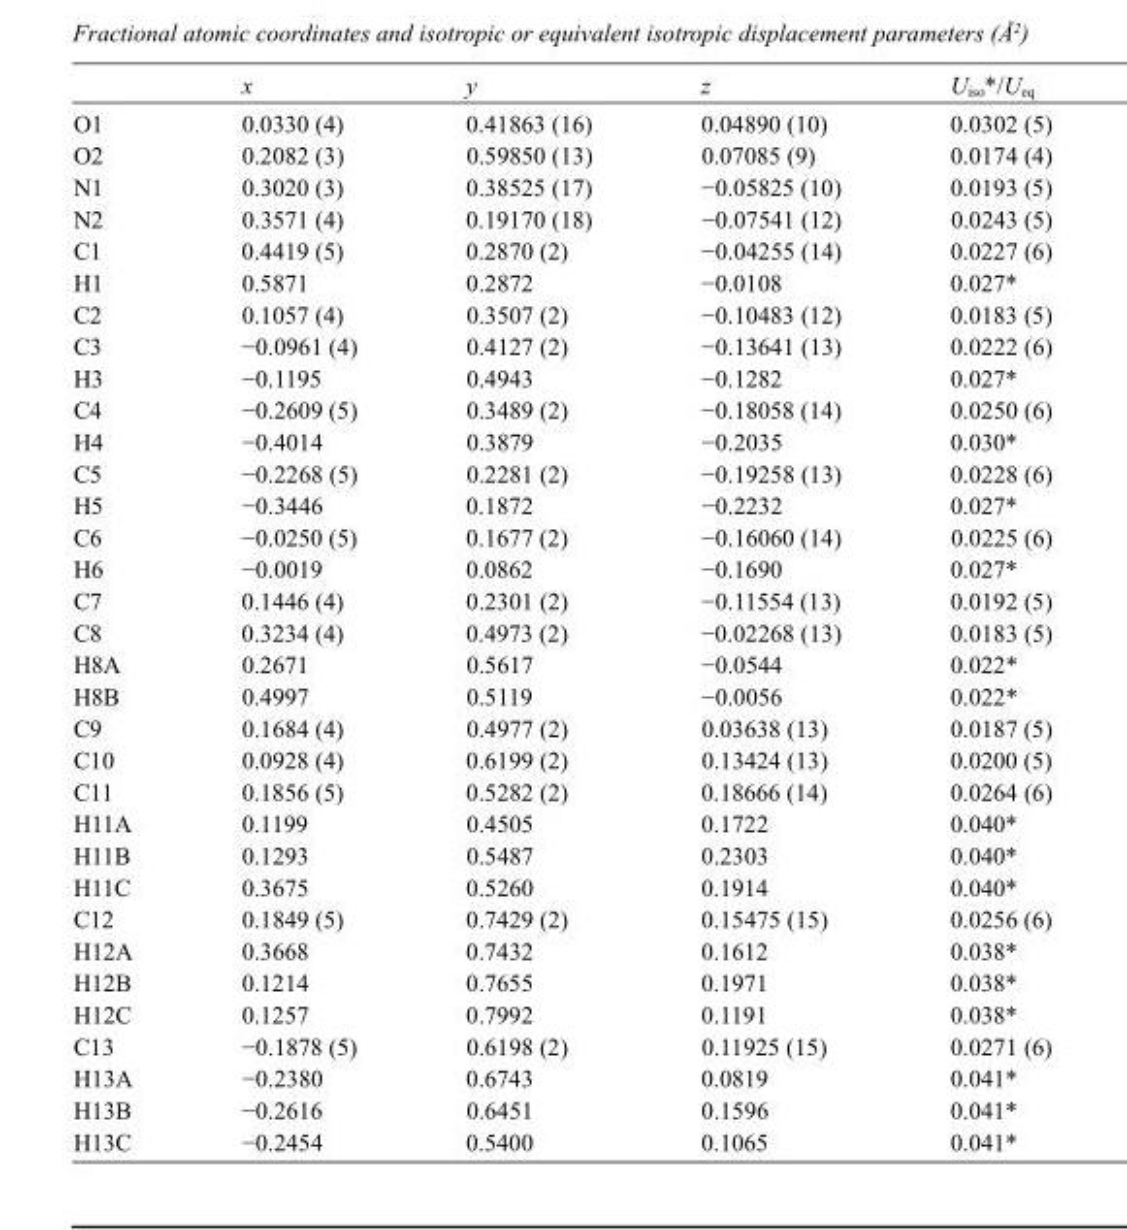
<table><thead><tr><td></td><td>x</td><td>y</td><td>z</td><td>U<sub>iso</sub>*/U<sub>eq</sub></td></tr></thead><tbody><tr><td>O1</td><td>0.0330 (4)</td><td>0.41863 (16)</td><td>0.04890 (10)</td><td>0.0302 (5)</td></tr><tr><td>O2</td><td>0.2082 (3)</td><td>0.59850 (13)</td><td>0.07085 (9)</td><td>0.0174 (4)</td></tr><tr><td>N1</td><td>0.3020 (3)</td><td>0.38525 (17)</td><td>−0.05825 (10)</td><td>0.0193 (5)</td></tr><tr><td>N2</td><td>0.3571 (4)</td><td>0.19170 (18)</td><td>−0.07541 (12)</td><td>0.0243 (5)</td></tr><tr><td>C1</td><td>0.4419 (5)</td><td>0.2870 (2)</td><td>−0.04255 (14)</td><td>0.0227 (6)</td></tr><tr><td>H1</td><td>0.5871</td><td>0.2872</td><td>−0.0108</td><td>0.027*</td></tr><tr><td>C2</td><td>0.1057 (4)</td><td>0.3507 (2)</td><td>−0.10483 (12)</td><td>0.0183 (5)</td></tr><tr><td>C3</td><td>−0.0961 (4)</td><td>0.4127 (2)</td><td>−0.13641 (13)</td><td>0.0222 (6)</td></tr><tr><td>H3</td><td>−0.1195</td><td>0.4943</td><td>−0.1282</td><td>0.027*</td></tr><tr><td>C4</td><td>−0.2609 (5)</td><td>0.3489 (2)</td><td>−0.18058 (14)</td><td>0.0250 (6)</td></tr><tr><td>H4</td><td>−0.4014</td><td>0.3879</td><td>−0.2035</td><td>0.030*</td></tr><tr><td>C5</td><td>−0.2268 (5)</td><td>0.2281 (2)</td><td>−0.19258 (13)</td><td>0.0228 (6)</td></tr><tr><td>H5</td><td>−0.3446</td><td>0.1872</td><td>−0.2232</td><td>0.027*</td></tr><tr><td>C6</td><td>−0.0250 (5)</td><td>0.1677 (2)</td><td>−0.16060 (14)</td><td>0.0225 (6)</td></tr><tr><td>H6</td><td>−0.0019</td><td>0.0862</td><td>−0.1690</td><td>0.027*</td></tr><tr><td>C7</td><td>0.1446 (4)</td><td>0.2301 (2)</td><td>−0.11554 (13)</td><td>0.0192 (5)</td></tr><tr><td>C8</td><td>0.3234 (4)</td><td>0.4973 (2)</td><td>−0.02268 (13)</td><td>0.0183 (5)</td></tr><tr><td>H8A</td><td>0.2671</td><td>0.5617</td><td>−0.0544</td><td>0.022*</td></tr><tr><td>H8B</td><td>0.4997</td><td>0.5119</td><td>−0.0056</td><td>0.022*</td></tr><tr><td>C9</td><td>0.1684 (4)</td><td>0.4977 (2)</td><td>0.03638 (13)</td><td>0.0187 (5)</td></tr><tr><td>C10</td><td>0.0928 (4)</td><td>0.6199 (2)</td><td>0.13424 (13)</td><td>0.0200 (5)</td></tr><tr><td>C11</td><td>0.1856 (5)</td><td>0.5282 (2)</td><td>0.18666 (14)</td><td>0.0264 (6)</td></tr><tr><td>H11A</td><td>0.1199</td><td>0.4505</td><td>0.1722</td><td>0.040*</td></tr><tr><td>H11B</td><td>0.1293</td><td>0.5487</td><td>0.2303</td><td>0.040*</td></tr><tr><td>H11C</td><td>0.3675</td><td>0.5260</td><td>0.1914</td><td>0.040*</td></tr><tr><td>C12</td><td>0.1849 (5)</td><td>0.7429 (2)</td><td>0.15475 (15)</td><td>0.0256 (6)</td></tr><tr><td>H12A</td><td>0.3668</td><td>0.7432</td><td>0.1612</td><td>0.038*</td></tr><tr><td>H12B</td><td>0.1214</td><td>0.7655</td><td>0.1971</td><td>0.038*</td></tr><tr><td>H12C</td><td>0.1257</td><td>0.7992</td><td>0.1191</td><td>0.038*</td></tr><tr><td>C13</td><td>−0.1878 (5)</td><td>0.6198 (2)</td><td>0.11925 (15)</td><td>0.0271 (6)</td></tr><tr><td>H13A</td><td>−0.2380</td><td>0.6743</td><td>0.0819</td><td>0.041*</td></tr><tr><td>H13B</td><td>−0.2616</td><td>0.6451</td><td>0.1596</td><td>0.041*</td></tr><tr><td>H13C</td><td>−0.2454</td><td>0.5400</td><td>0.1065</td><td>0.041*</td></tr></tbody></table>